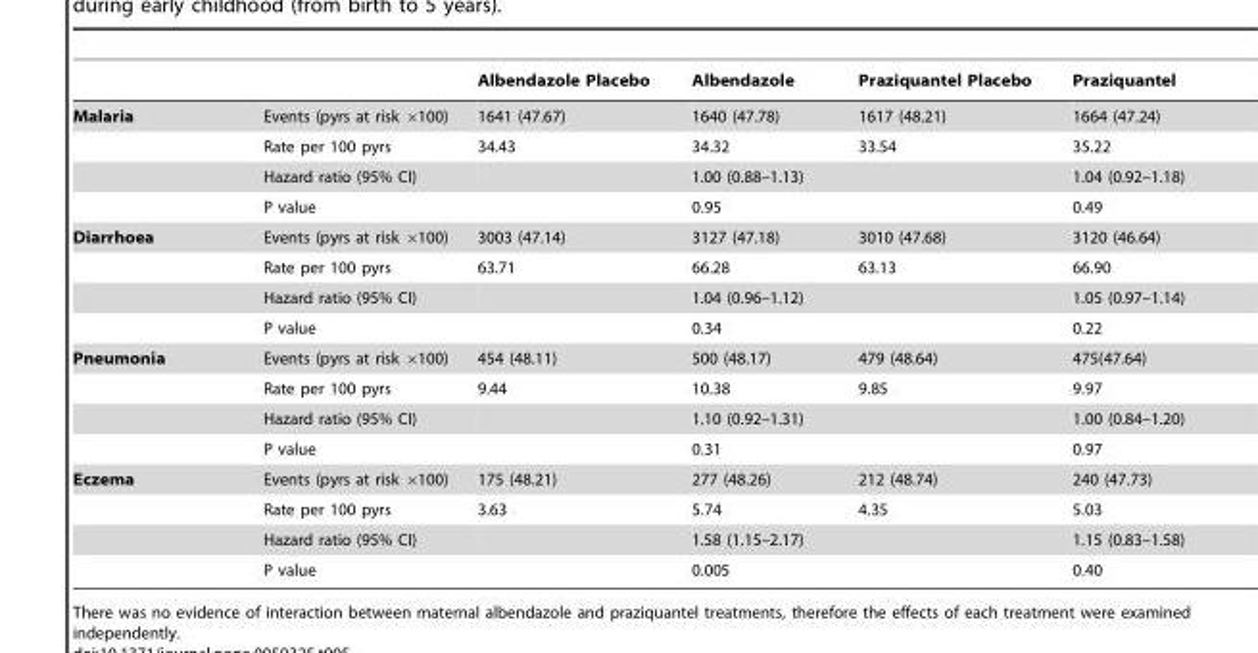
<table><thead><tr><td></td><td></td><td>Albendazole Placebo</td><td>Albendazole</td><td>Praziquantel Placebo</td><td>Praziquantel</td></tr></thead><tbody><tr><td rowspan="4">Malaria</td><td>Events (pyrs at risk ×100)</td><td>1641 (47.67)</td><td>1640 (47.78)</td><td>1617 (48.21)</td><td>1664 (47.24)</td></tr><tr><td>Rate per 100 pyrs</td><td>34.43</td><td>34.32</td><td>33.54</td><td>35.22</td></tr><tr><td>Hazard ratio (95% CI)</td><td></td><td>1.00 (0.88–1.13)</td><td></td><td>1.04 (0.92–1.18)</td></tr><tr><td>P value</td><td></td><td>0.95</td><td></td><td>0.49</td></tr><tr><td rowspan="4">Diarrhoea</td><td>Events (pyrs at risk ×100)</td><td>3003 (47.14)</td><td>3127 (47.18)</td><td>3010 (47.68)</td><td>3120 (46.64)</td></tr><tr><td>Rate per 100 pyrs</td><td>63.71</td><td>66.28</td><td>63.13</td><td>66.90</td></tr><tr><td>Hazard ratio (95% CI)</td><td></td><td>1.04 (0.96–1.12)</td><td></td><td>1.05 (0.97–1.14)</td></tr><tr><td>P value</td><td></td><td>0.34</td><td></td><td>0.22</td></tr><tr><td rowspan="4">Pneumonia</td><td>Events (pyrs at risk ×100)</td><td>454 (48.11)</td><td>500 (48.17)</td><td>479 (48.64)</td><td>475(47.64)</td></tr><tr><td>Rate per 100 pyrs</td><td>9.44</td><td>10.38</td><td>9.85</td><td>9.97</td></tr><tr><td>Hazard ratio (95% CI)</td><td></td><td>1.10 (0.92–1.31)</td><td></td><td>1.00 (0.84–1.20)</td></tr><tr><td>P value</td><td></td><td>0.31</td><td></td><td>0.97</td></tr><tr><td rowspan="4">Eczema</td><td>Events (pyrs at risk ×100)</td><td>175 (48.21)</td><td>277 (48.26)</td><td>212 (48.74)</td><td>240 (47.73)</td></tr><tr><td>Rate per 100 pyrs</td><td>3.63</td><td>5.74</td><td>4.35</td><td>5.03</td></tr><tr><td>Hazard ratio (95% CI)</td><td></td><td>1.58 (1.15–2.17)</td><td></td><td>1.15 (0.83–1.58)</td></tr><tr><td>P value</td><td></td><td>0.005</td><td></td><td>0.40</td></tr></tbody></table>